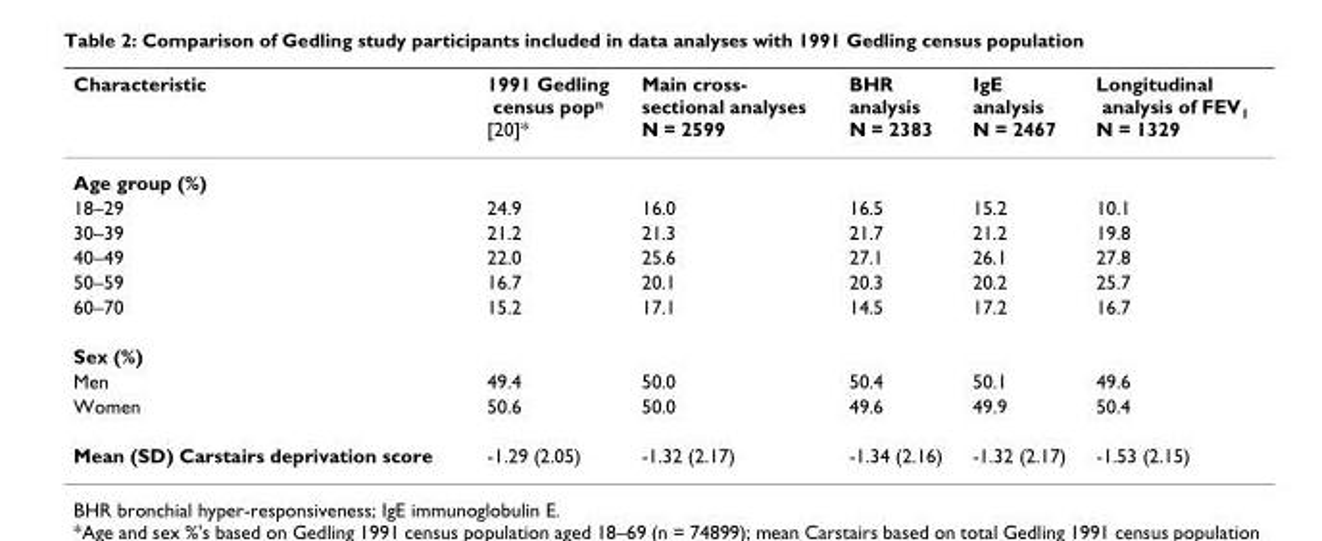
<table><thead><tr><td>Characteristic</td><td>1991 Gedling census pop<sup>n</sup> [20]*</td><td>Main cross- sectional analyses N = 2599</td><td>BHR analysis N = 2383</td><td>IgE analysis N = 2467</td><td>Longitudinal analysis of FEV<sub>1</sub> N = 1329</td></tr></thead><tbody><tr><td colspan="6">Age group (%)</td></tr><tr><td>18–29</td><td>24.9</td><td>16.0</td><td>16.5</td><td>15.2</td><td>10.1</td></tr><tr><td>30–39</td><td>21.2</td><td>21.3</td><td>21.7</td><td>21.2</td><td>19.8</td></tr><tr><td>40–49</td><td>22.0</td><td>25.6</td><td>27.1</td><td>26.1</td><td>27.8</td></tr><tr><td>50–59</td><td>16.7</td><td>20.1</td><td>20.3</td><td>20.2</td><td>25.7</td></tr><tr><td>60–70</td><td>15.2</td><td>17.1</td><td>14.5</td><td>17.2</td><td>16.7</td></tr><tr><td colspan="6">Sex (%)</td></tr><tr><td>Men</td><td>49.4</td><td>50.0</td><td>50.4</td><td>50.1</td><td>49.6</td></tr><tr><td>Women</td><td>50.6</td><td>50.0</td><td>49.6</td><td>49.9</td><td>50.4</td></tr><tr><td>Mean (SD) Carstairs deprivation score</td><td>-1.29 (2.05)</td><td>-1.32 (2.17)</td><td>-1.34 (2.16)</td><td>-1.32 (2.17)</td><td>-1.53 (2.15)</td></tr></tbody></table>